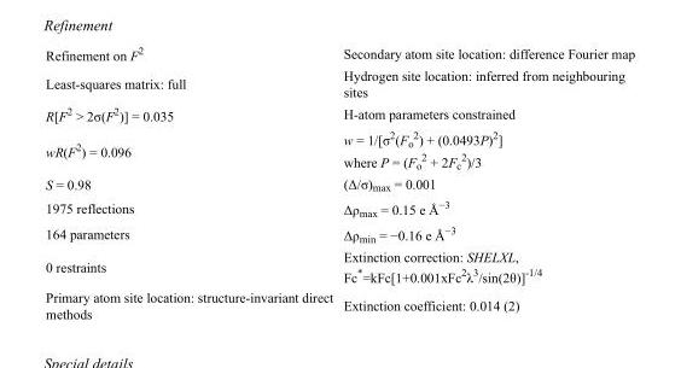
<table><tbody><tr><td>Refinement on F<sup>2</sup></td><td>Secondary atom site location: difference Fourier map</td></tr><tr><td>Least-squares matrix: full</td><td>Hydrogen site location: inferred from neighbouring sites</td></tr><tr><td>R[F<sup>2</sup> &gt; 2σ(F<sup>2</sup>)] = 0.035</td><td>H-atom parameters constrained</td></tr><tr><td>wR(F<sup>2</sup>) = 0.096</td><td>w = 1/[σ<sup>2</sup>(F<sub>o</sub> <sup>2</sup>) + (0.0493P)<sup>2</sup>] where P = (F<sub>o</sub> <sup>2</sup> + 2F<sub>c</sub> <sup>2</sup>)/3</td></tr><tr><td>S = 0.98</td><td>(Δ/σ)<sub>max</sub> = 0.001</td></tr><tr><td>1975 reflections</td><td>Δρ<sub>max</sub> = 0.15 e Å<sup>−3</sup></td></tr><tr><td>164 parameters</td><td>Δρ<sub>min</sub> = −0.16 e Å<sup>−3</sup></td></tr><tr><td>0 restraints</td><td>Extinction correction: SHELXL, Fc*=kFc[1+0.001xFc<sup>2</sup>λ<sup>3</sup>/sin(2θ)]<sup>-1/4</sup></td></tr><tr><td>Primary atom site location: structure-invariant direct methods</td><td>Extinction coefficient: 0.014 (2)</td></tr></tbody></table>